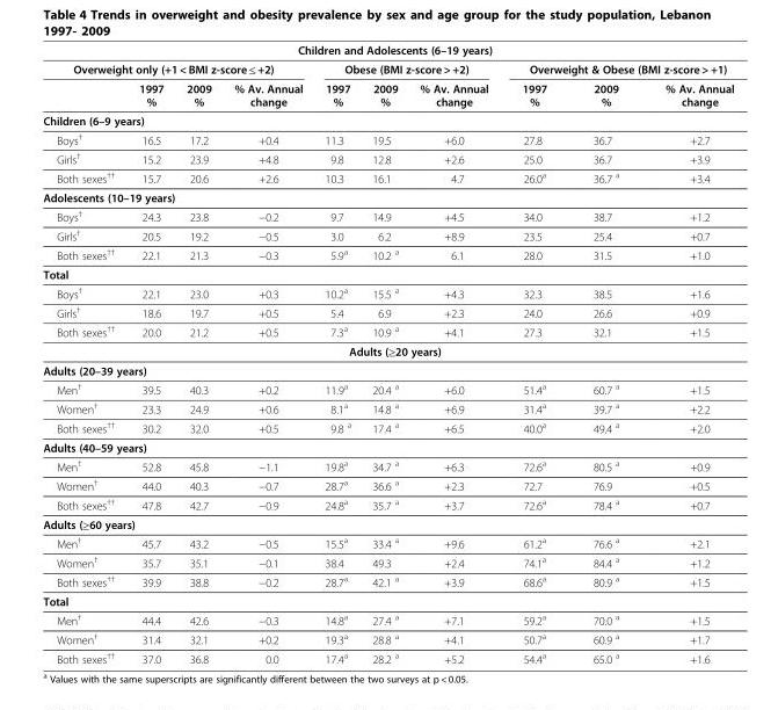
<table><thead><tr><td colspan="10">Children and Adolescents (6–19 years)</td></tr><tr><td colspan="4">Overweight only (+1 &lt; BMI z-score ≤ +2)</td><td colspan="3">Obese (BMI z-score &gt; +2)</td><td colspan="3">Overweight &amp; Obese (BMI z-score &gt; +1)</td></tr><tr><td></td><td>1997 %</td><td>2009 %</td><td>% Av. Annual change</td><td>1997 %</td><td>2009 %</td><td>% Av. Annual change</td><td>1997 %</td><td>2009 %</td><td>% Av. Annual change</td></tr></thead><tbody><tr><td colspan="10">Children (6–9 years)</td></tr><tr><td>Boys<sup>†</sup></td><td>16.5</td><td>17.2</td><td>+0.4</td><td>11.3</td><td>19.5</td><td>+6.0</td><td>27.8</td><td>36.7</td><td>+2.7</td></tr><tr><td>Girls<sup>†</sup></td><td>15.2</td><td>23.9</td><td>+4.8</td><td>9.8</td><td>12.8</td><td>+2.6</td><td>25.0</td><td>36.7</td><td>+3.9</td></tr><tr><td>Both sexes<sup>††</sup></td><td>15.7</td><td>20.6</td><td>+2.6</td><td>10.3</td><td>16.1</td><td>4.7</td><td>26.0<sup>a</sup></td><td>36.7 <sup>a</sup></td><td>+3.4</td></tr><tr><td colspan="10">Adolescents (10–19 years)</td></tr><tr><td>Boys<sup>†</sup></td><td>24.3</td><td>23.8</td><td>−0.2</td><td>9.7</td><td>14.9</td><td>+4.5</td><td>34.0</td><td>38.7</td><td>+1.2</td></tr><tr><td>Girls<sup>†</sup></td><td>20.5</td><td>19.2</td><td>−0.5</td><td>3.0</td><td>6.2</td><td>+8.9</td><td>23.5</td><td>25.4</td><td>+0.7</td></tr><tr><td>Both sexes<sup>††</sup></td><td>22.1</td><td>21.3</td><td>−0.3</td><td>5.9<sup>a</sup></td><td>10.2 <sup>a</sup></td><td>6.1</td><td>28.0</td><td>31.5</td><td>+1.0</td></tr><tr><td colspan="10">Total</td></tr><tr><td>Boys<sup>†</sup></td><td>22.1</td><td>23.0</td><td>+0.3</td><td>10.2<sup>a</sup></td><td>15.5 <sup>a</sup></td><td>+4.3</td><td>32.3</td><td>38.5</td><td>+1.6</td></tr><tr><td>Girls<sup>†</sup></td><td>18.6</td><td>19.7</td><td>+0.5</td><td>5.4</td><td>6.9</td><td>+2.3</td><td>24.0</td><td>26.6</td><td>+0.9</td></tr><tr><td>Both sexes<sup>††</sup></td><td>20.0</td><td>21.2</td><td>+0.5</td><td>7.3<sup>a</sup></td><td>10.9 <sup>a</sup></td><td>+4.1</td><td>27.3</td><td>32.1</td><td>+1.5</td></tr><tr><td colspan="10">Adults (≥20 years)</td></tr><tr><td colspan="10">Adults (20–39 years)</td></tr><tr><td>Men<sup>†</sup></td><td>39.5</td><td>40.3</td><td>+0.2</td><td>11.9<sup>a</sup></td><td>20.4 <sup>a</sup></td><td>+6.0</td><td>51.4<sup>a</sup></td><td>60.7 <sup>a</sup></td><td>+1.5</td></tr><tr><td>Women<sup>†</sup></td><td>23.3</td><td>24.9</td><td>+0.6</td><td>8.1<sup>a</sup></td><td>14.8 <sup>a</sup></td><td>+6.9</td><td>31.4<sup>a</sup></td><td>39.7 <sup>a</sup></td><td>+2.2</td></tr><tr><td>Both sexes<sup>††</sup></td><td>30.2</td><td>32.0</td><td>+0.5</td><td>9.8 <sup>a</sup></td><td>17.4 <sup>a</sup></td><td>+6.5</td><td>40.0<sup>a</sup></td><td>49.4 <sup>a</sup></td><td>+2.0</td></tr><tr><td colspan="10">Adults (40–59 years)</td></tr><tr><td>Men<sup>†</sup></td><td>52.8</td><td>45.8</td><td>−1.1</td><td>19.8<sup>a</sup></td><td>34.7 <sup>a</sup></td><td>+6.3</td><td>72.6<sup>a</sup></td><td>80.5 <sup>a</sup></td><td>+0.9</td></tr><tr><td>Women<sup>†</sup></td><td>44.0</td><td>40.3</td><td>−0.7</td><td>28.7<sup>a</sup></td><td>36.6 <sup>a</sup></td><td>+2.3</td><td>72.7</td><td>76.9</td><td>+0.5</td></tr><tr><td>Both sexes<sup>††</sup></td><td>47.8</td><td>42.7</td><td>−0.9</td><td>24.8<sup>a</sup></td><td>35.7 <sup>a</sup></td><td>+3.7</td><td>72.6<sup>a</sup></td><td>78.4 <sup>a</sup></td><td>+0.7</td></tr><tr><td colspan="10">Adults (≥60 years)</td></tr><tr><td>Men<sup>†</sup></td><td>45.7</td><td>43.2</td><td>−0.5</td><td>15.5<sup>a</sup></td><td>33.4 <sup>a</sup></td><td>+9.6</td><td>61.2<sup>a</sup></td><td>76.6 <sup>a</sup></td><td>+2.1</td></tr><tr><td>Women<sup>†</sup></td><td>35.7</td><td>35.1</td><td>−0.1</td><td>38.4</td><td>49.3</td><td>+2.4</td><td>74.1<sup>a</sup></td><td>84.4 <sup>a</sup></td><td>+1.2</td></tr><tr><td>Both sexes<sup>††</sup></td><td>39.9</td><td>38.8</td><td>−0.2</td><td>28.7<sup>a</sup></td><td>42.1 <sup>a</sup></td><td>+3.9</td><td>68.6<sup>a</sup></td><td>80.9 <sup>a</sup></td><td>+1.5</td></tr><tr><td colspan="10">Total</td></tr><tr><td>Men<sup>†</sup></td><td>44.4</td><td>42.6</td><td>−0.3</td><td>14.8<sup>a</sup></td><td>27.4 <sup>a</sup></td><td>+7.1</td><td>59.2<sup>a</sup></td><td>70.0 <sup>a</sup></td><td>+1.5</td></tr><tr><td>Women<sup>†</sup></td><td>31.4</td><td>32.1</td><td>+0.2</td><td>19.3<sup>a</sup></td><td>28.8 <sup>a</sup></td><td>+4.1</td><td>50.7<sup>a</sup></td><td>60.9 <sup>a</sup></td><td>+1.7</td></tr><tr><td>Both sexes<sup>††</sup></td><td>37.0</td><td>36.8</td><td>0.0</td><td>17.4<sup>a</sup></td><td>28.2 <sup>a</sup></td><td>+5.2</td><td>54.4<sup>a</sup></td><td>65.0 <sup>a</sup></td><td>+1.6</td></tr></tbody></table>